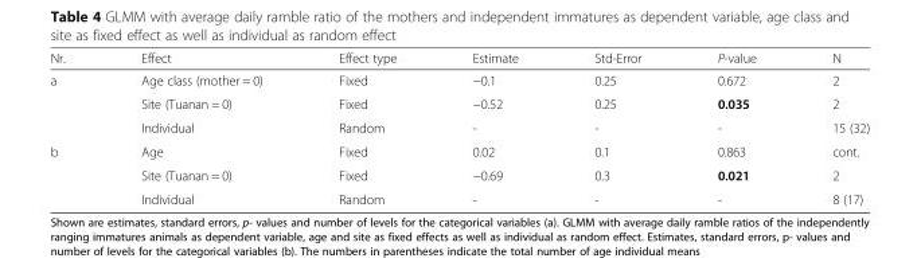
<table><thead><tr><td>Nr.</td><td>Effect</td><td>Effect type</td><td>Estimate</td><td>Std-Error</td><td>P-value</td><td>N</td></tr></thead><tbody><tr><td rowspan="3">a</td><td>Age class (mother = 0)</td><td>Fixed</td><td>−0.1</td><td>0.25</td><td>0.672</td><td>2</td></tr><tr><td>Site (Tuanan = 0)</td><td>Fixed</td><td>−0.52</td><td>0.25</td><td>0.035</td><td>2</td></tr><tr><td>Individual</td><td>Random</td><td>-</td><td>-</td><td>-</td><td>15 (32)</td></tr><tr><td rowspan="3">b</td><td>Age</td><td>Fixed</td><td>0.02</td><td>0.1</td><td>0.863</td><td>cont.</td></tr><tr><td>Site (Tuanan = 0)</td><td>Fixed</td><td>−0.69</td><td>0.3</td><td>0.021</td><td>2</td></tr><tr><td>Individual</td><td>Random</td><td>-</td><td>-</td><td>-</td><td>8 (17)</td></tr></tbody></table>